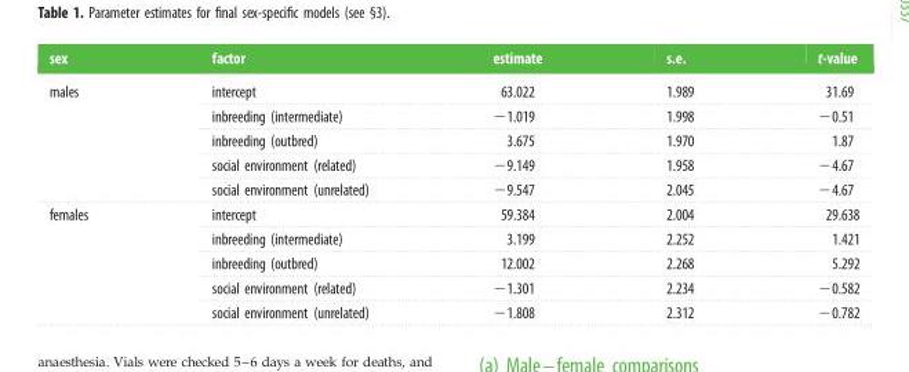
<table><thead><tr><td>sex</td><td>factor</td><td>estimate</td><td>s.e.</td><td>t-value</td></tr></thead><tbody><tr><td rowspan="5">males</td><td>intercept</td><td>63.022</td><td>1.989</td><td>31.69</td></tr><tr><td>inbreeding (intermediate)</td><td>−1.019</td><td>1.998</td><td>−0.51</td></tr><tr><td>inbreeding (outbred)</td><td>3.675</td><td>1.970</td><td>1.87</td></tr><tr><td>social environment (related)</td><td>−9.149</td><td>1.958</td><td>−4.67</td></tr><tr><td>social environment (unrelated)</td><td>−9.547</td><td>2.045</td><td>−4.67</td></tr><tr><td rowspan="5">females</td><td>intercept</td><td>59.384</td><td>2.004</td><td>29.638</td></tr><tr><td>inbreeding (intermediate)</td><td>3.199</td><td>2.252</td><td>1.421</td></tr><tr><td>inbreeding (outbred)</td><td>12.002</td><td>2.268</td><td>5.292</td></tr><tr><td>social environment (related)</td><td>−1.301</td><td>2.234</td><td>−0.582</td></tr><tr><td>social environment (unrelated)</td><td>−1.808</td><td>2.312</td><td>−0.782</td></tr></tbody></table>